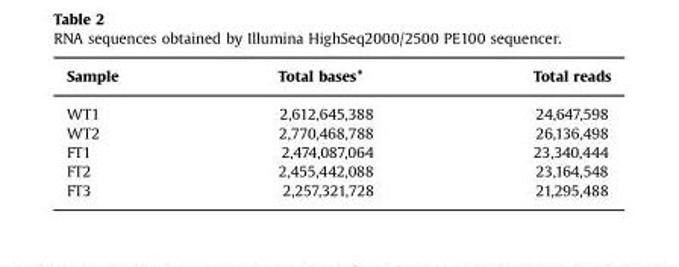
<table><thead><tr><td>Sample</td><td>Total bases*</td><td>Total reads</td></tr></thead><tbody><tr><td>WT1</td><td>2,612,645,388</td><td>24,647,598</td></tr><tr><td>WT2</td><td>2,770,468,788</td><td>26,136,498</td></tr><tr><td>FT1</td><td>2,474,087,064</td><td>23,340,444</td></tr><tr><td>FT2</td><td>2,455,442,088</td><td>23,164,548</td></tr><tr><td>FT3</td><td>2,257,321,728</td><td>21,295,488</td></tr></tbody></table>